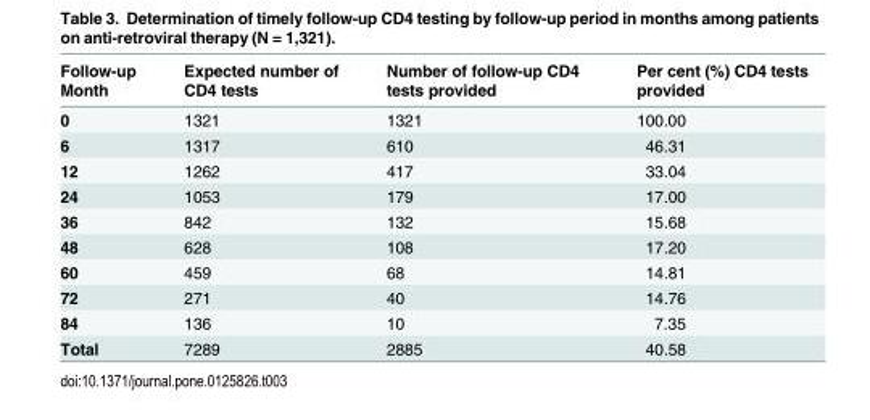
<table><thead><tr><td>Follow-up Month</td><td>Expected number of CD4 tests</td><td>Number of follow-up CD4 tests provided</td><td>Per cent (%) CD4 tests provided</td></tr></thead><tbody><tr><td>0</td><td>1321</td><td>1321</td><td>100.00</td></tr><tr><td>6</td><td>1317</td><td>610</td><td>46.31</td></tr><tr><td>12</td><td>1262</td><td>417</td><td>33.04</td></tr><tr><td>24</td><td>1053</td><td>179</td><td>17.00</td></tr><tr><td>36</td><td>842</td><td>132</td><td>15.68</td></tr><tr><td>48</td><td>628</td><td>108</td><td>17.20</td></tr><tr><td>60</td><td>459</td><td>68</td><td>14.81</td></tr><tr><td>72</td><td>271</td><td>40</td><td>14.76</td></tr><tr><td>84</td><td>136</td><td>10</td><td>7.35</td></tr><tr><td>Total</td><td>7289</td><td>2885</td><td>40.58</td></tr></tbody></table>